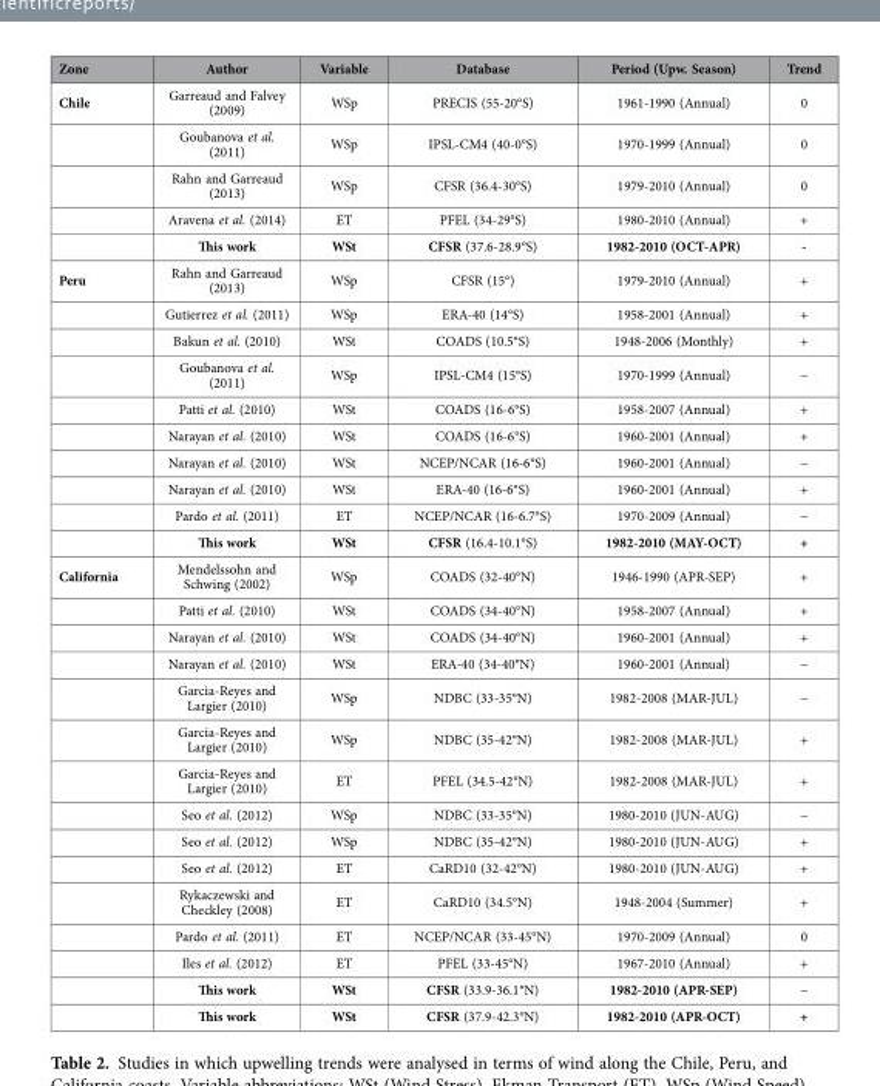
<table><thead><tr><td>Zone</td><td>Author</td><td>Variable</td><td>Database</td><td>Period (Upw. Season)</td><td>Trend</td></tr></thead><tbody><tr><td rowspan="5">Chile</td><td>Garreaud and Falvey (2009)</td><td>WSp</td><td>PRECIS (55-20°S)</td><td>1961-1990 (Annual)</td><td>0</td></tr><tr><td>Goubanova et al. (2011)</td><td>WSp</td><td>IPSL-CM4 (40-0°S)</td><td>1970-1999 (Annual)</td><td>0</td></tr><tr><td>Rahn and Garreaud (2013)</td><td>WSp</td><td>CFSR (36.4-30°S)</td><td>1979-2010 (Annual)</td><td>0</td></tr><tr><td>Aravena et al. (2014)</td><td>ET</td><td>PFEL (34-29°S)</td><td>1980-2010 (Annual)</td><td>+</td></tr><tr><td>This work</td><td>WSt</td><td>CFSR (37.6-28.9°S)</td><td>1982-2010 (OCT-APR)</td><td>-</td></tr><tr><td rowspan="10">Peru</td><td>Rahn and Garreaud (2013)</td><td>WSp</td><td>CFSR (15°)</td><td>1979-2010 (Annual)</td><td>+</td></tr><tr><td>Gutierrez et al. (2011)</td><td>WSp</td><td>ERA-40 (14°S)</td><td>1958-2001 (Annual)</td><td>+</td></tr><tr><td>Bakun et al. (2010)</td><td>WSt</td><td>COADS (10.5°S)</td><td>1948-2006 (Monthly)</td><td>+</td></tr><tr><td>Goubanova et al. (2011)</td><td>WSp</td><td>IPSL-CM4 (15°S)</td><td>1970-1999 (Annual)</td><td>−</td></tr><tr><td>Patti et al. (2010)</td><td>WSt</td><td>COADS (16-6°S)</td><td>1958-2007 (Annual)</td><td>+</td></tr><tr><td>Narayan et al. (2010)</td><td>WSt</td><td>COADS (16-6°S)</td><td>1960-2001 (Annual)</td><td>+</td></tr><tr><td>Narayan et al. (2010)</td><td>WSt</td><td>NCEP/NCAR (16-6°S)</td><td>1960-2001 (Annual)</td><td>−</td></tr><tr><td>Narayan et al. (2010)</td><td>WSt</td><td>ERA-40 (16-6°S)</td><td>1960-2001 (Annual)</td><td>+</td></tr><tr><td>Pardo et al. (2011)</td><td>ET</td><td>NCEP/NCAR (16-6.7°S)</td><td>1970-2009 (Annual)</td><td>−</td></tr><tr><td>This work</td><td>WSt</td><td>CFSR (16.4-10.1°S)</td><td>1982-2010 (MAY-OCT)</td><td>+</td></tr><tr><td rowspan="15">California</td><td>Mendelssohn and Schwing (2002)</td><td>WSp</td><td>COADS (32-40°N)</td><td>1946-1990 (APR-SEP)</td><td>+</td></tr><tr><td>Patti et al. (2010)</td><td>WSt</td><td>COADS (34-40°N)</td><td>1958-2007 (Annual)</td><td>+</td></tr><tr><td>Narayan et al. (2010)</td><td>WSt</td><td>COADS (34-40°N)</td><td>1960-2001 (Annual)</td><td>+</td></tr><tr><td>Narayan et al. (2010)</td><td>WSt</td><td>ERA-40 (34-40°N)</td><td>1960-2001 (Annual)</td><td>−</td></tr><tr><td>Garcia-Reyes and Largier (2010)</td><td>WSp</td><td>NDBC (33-35°N)</td><td>1982-2008 (MAR-JUL)</td><td>−</td></tr><tr><td>Garcia-Reyes and Largier (2010)</td><td>WSp</td><td>NDBC (35-42°N)</td><td>1982-2008 (MAR-JUL)</td><td>+</td></tr><tr><td>Garcia-Reyes and Largier (2010)</td><td>ET</td><td>PFEL (34.5-42°N)</td><td>1982-2008 (MAR-JUL)</td><td>+</td></tr><tr><td>Seo et al. (2012)</td><td>WSp</td><td>NDBC (33-35°N)</td><td>1980-2010 (JUN-AUG)</td><td>−</td></tr><tr><td>Seo et al. (2012)</td><td>WSp</td><td>NDBC (35-42°N)</td><td>1980-2010 (JUN-AUG)</td><td>+</td></tr><tr><td>Seo et al. (2012)</td><td>ET</td><td>CaRD10 (32-42°N)</td><td>1980-2010 (JUN-AUG)</td><td>+</td></tr><tr><td>Rykaczewski and Checkley (2008)</td><td>ET</td><td>CaRD10 (34.5°N)</td><td>1948-2004 (Summer)</td><td>+</td></tr><tr><td>Pardo et al. (2011)</td><td>ET</td><td>NCEP/NCAR (33-45°N)</td><td>1970-2009 (Annual)</td><td>0</td></tr><tr><td>Iles et al. (2012)</td><td>ET</td><td>PFEL (33-45°N)</td><td>1967-2010 (Annual)</td><td>+</td></tr><tr><td>This work</td><td>WSt</td><td>CFSR (33.9-36.1°N)</td><td>1982-2010 (APR-SEP)</td><td>−</td></tr><tr><td>This work</td><td>WSt</td><td>CFSR (37.9-42.3°N)</td><td>1982-2010 (APR-OCT)</td><td>+</td></tr></tbody></table>